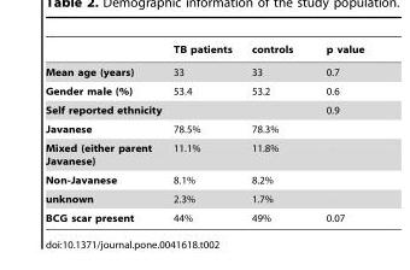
<table><thead><tr><td></td><td>TB patients</td><td>controls</td><td>p value</td></tr></thead><tbody><tr><td>Mean age (years)</td><td>33</td><td>33</td><td>0.7</td></tr><tr><td>Gender male (%)</td><td>53.4</td><td>53.2</td><td>0.6</td></tr><tr><td>Self reported ethnicity</td><td></td><td></td><td>0.9</td></tr><tr><td>Javanese</td><td>78.5%</td><td>78.3%</td><td></td></tr><tr><td>Mixed (either parent Javanese)</td><td>11.1%</td><td>11.8%</td><td></td></tr><tr><td>Non-Javanese</td><td>8.1%</td><td>8.2%</td><td></td></tr><tr><td>unknown</td><td>2.3%</td><td>1.7%</td><td></td></tr><tr><td>BCG scar present</td><td>44%</td><td>49%</td><td>0.07</td></tr></tbody></table>